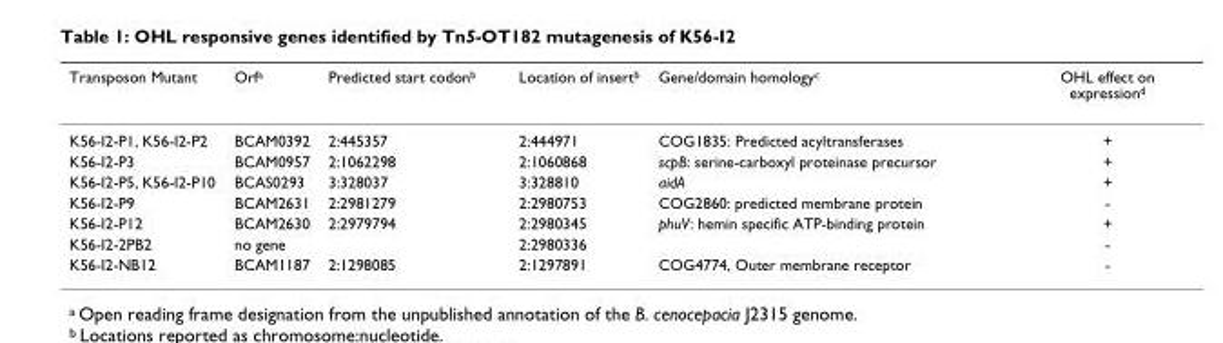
<table><thead><tr><td>Transposon Mutant</td><td>Orfa</td><td>Predicted start codonb</td><td>Location of insertb</td><td>Gene/domain homologyc</td><td>OHL effect on expressiond</td></tr></thead><tbody><tr><td>K56-I2-P1, K56-I2-P2</td><td>BCAM0392</td><td>2:445357</td><td>2:444971</td><td>COG1835: Predicted acyltransferases</td><td>+</td></tr><tr><td>K56-I2-P3</td><td>BCAM0957</td><td>2:1062298</td><td>2:1060868</td><td>scpB: serine-carboxyl proteinase precursor</td><td>+</td></tr><tr><td>K56-I2-P5, K56-I2-P10</td><td>BCAS0293</td><td>3:328037</td><td>3:328810</td><td>aidA</td><td>+</td></tr><tr><td>K56-I2-P9</td><td>BCAM2631</td><td>2:2981279</td><td>2:2980753</td><td>COG2860: predicted membrane protein</td><td>-</td></tr><tr><td>K56-I2-P12</td><td>BCAM2630</td><td>2:2979794</td><td>2:2980345</td><td>phuV: hemin specific ATP-binding protein</td><td>+</td></tr><tr><td>K56-I2-2PB2</td><td>no gene</td><td></td><td>2:2980336</td><td></td><td>-</td></tr><tr><td>K56-I2-NB12</td><td>BCAM1187</td><td>2:1298085</td><td>2:1297891</td><td>COG4774, Outer membrane receptor</td><td>-</td></tr></tbody></table>